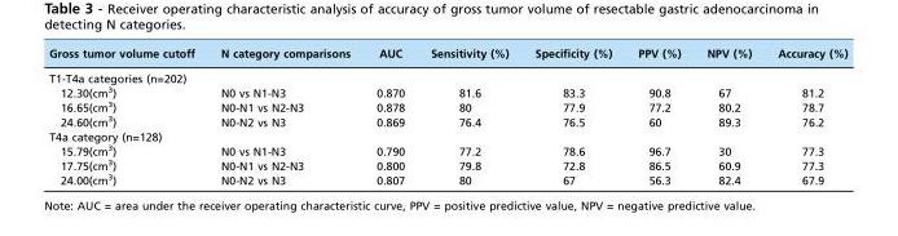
<table><thead><tr><td>Gross tumor volume cutoff</td><td>N category comparisons</td><td>AUC</td><td>Sensitivity (%)</td><td>Specificity (%)</td><td>PPV (%)</td><td>NPV (%)</td><td>Accuracy (%)</td></tr></thead><tbody><tr><td colspan="8">T1-T4a categories (n=202)</td></tr><tr><td>12.30(cm<sup>3</sup>)</td><td>N0 vs N1-N3</td><td>0.870</td><td>81.6</td><td>83.3</td><td>90.8</td><td>67</td><td>81.2</td></tr><tr><td>16.65(cm<sup>3</sup>)</td><td>N0-N1 vs N2-N3</td><td>0.878</td><td>80</td><td>77.9</td><td>77.2</td><td>80.2</td><td>78.7</td></tr><tr><td>24.60(cm<sup>3</sup>)</td><td>N0-N2 vs N3</td><td>0.869</td><td>76.4</td><td>76.5</td><td>60</td><td>89.3</td><td>76.2</td></tr><tr><td colspan="8">T4a category (n=128)</td></tr><tr><td>15.79(cm<sup>3</sup>)</td><td>N0 vs N1-N3</td><td>0.790</td><td>77.2</td><td>78.6</td><td>96.7</td><td>30</td><td>77.3</td></tr><tr><td>17.75(cm<sup>3</sup>)</td><td>N0-N1 vs N2-N3</td><td>0.800</td><td>79.8</td><td>72.8</td><td>86.5</td><td>60.9</td><td>77.3</td></tr><tr><td>24.00(cm<sup>3</sup>)</td><td>N0-N2 vs N3</td><td>0.807</td><td>80</td><td>67</td><td>56.3</td><td>82.4</td><td>67.9</td></tr></tbody></table>